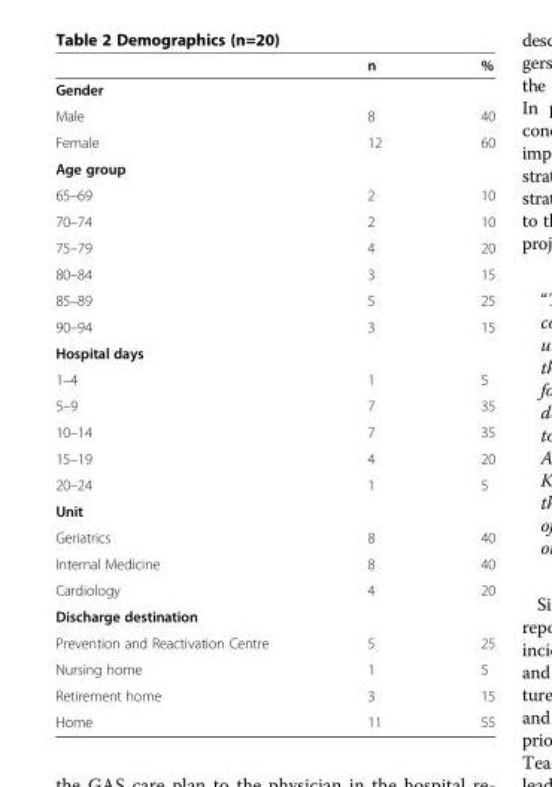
<table><thead><tr><td></td><td>n</td><td>%</td></tr></thead><tbody><tr><td colspan="3">Gender</td></tr><tr><td>Male</td><td>8</td><td>40</td></tr><tr><td>Female</td><td>12</td><td>60</td></tr><tr><td colspan="3">Age group</td></tr><tr><td>65–69</td><td>2</td><td>10</td></tr><tr><td>70–74</td><td>2</td><td>10</td></tr><tr><td>75–79</td><td>4</td><td>20</td></tr><tr><td>80–84</td><td>3</td><td>15</td></tr><tr><td>85–89</td><td>5</td><td>25</td></tr><tr><td>90–94</td><td>3</td><td>15</td></tr><tr><td colspan="3">Hospital days</td></tr><tr><td>1–4</td><td>1</td><td>5</td></tr><tr><td>5–9</td><td>7</td><td>35</td></tr><tr><td>10–14</td><td>7</td><td>35</td></tr><tr><td>15–19</td><td>4</td><td>20</td></tr><tr><td>20–24</td><td>1</td><td>5</td></tr><tr><td colspan="3">Unit</td></tr><tr><td>Geriatrics</td><td>8</td><td>40</td></tr><tr><td>Internal Medicine</td><td>8</td><td>40</td></tr><tr><td>Cardiology</td><td>4</td><td>20</td></tr><tr><td colspan="3">Discharge destination</td></tr><tr><td>Prevention and Reactivation Centre</td><td>5</td><td>25</td></tr><tr><td>Nursing home</td><td>1</td><td>5</td></tr><tr><td>Retirement home</td><td>3</td><td>15</td></tr><tr><td>Home</td><td>11</td><td>55</td></tr></tbody></table>